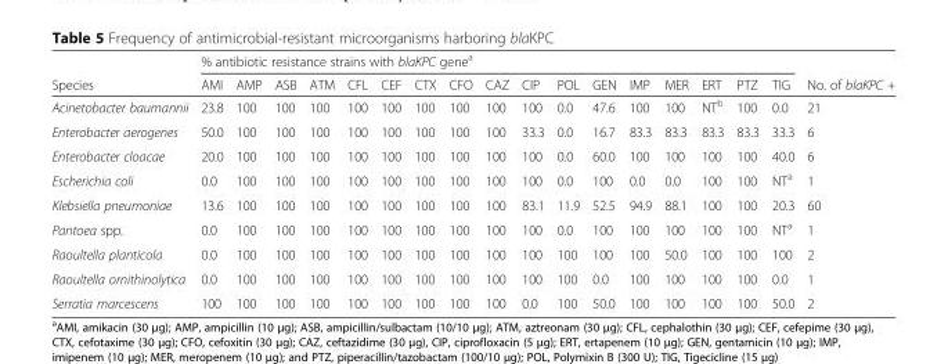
<table><thead><tr><td rowspan="2">Species</td><td colspan="17">% antibiotic resistance strains with blaKPC gene<sup>a</sup></td><td rowspan="2">No. of blaKPC +</td></tr><tr><td>AMI</td><td>AMP</td><td>ASB</td><td>ATM</td><td>CFL</td><td>CEF</td><td>CTX</td><td>CFO</td><td>CAZ</td><td>CIP</td><td>POL</td><td>GEN</td><td>IMP</td><td>MER</td><td>ERT</td><td>PTZ</td><td>TIG</td></tr></thead><tbody><tr><td>Acinetobacter baumannii</td><td>23.8</td><td>100</td><td>100</td><td>100</td><td>100</td><td>100</td><td>100</td><td>100</td><td>100</td><td>100</td><td>0.0</td><td>47.6</td><td>100</td><td>100</td><td>NT<sup>b</sup></td><td>100</td><td>0.0</td><td>21</td></tr><tr><td>Enterobacter aerogenes</td><td>50.0</td><td>100</td><td>100</td><td>100</td><td>100</td><td>100</td><td>100</td><td>100</td><td>100</td><td>33.3</td><td>0.0</td><td>16.7</td><td>83.3</td><td>83.3</td><td>83.3</td><td>83.3</td><td>33.3</td><td>6</td></tr><tr><td>Enterobacter cloacae</td><td>20.0</td><td>100</td><td>100</td><td>100</td><td>100</td><td>100</td><td>100</td><td>100</td><td>100</td><td>100</td><td>0.0</td><td>60.0</td><td>100</td><td>100</td><td>100</td><td>100</td><td>40.0</td><td>6</td></tr><tr><td>Escherichia coli</td><td>0.0</td><td>100</td><td>100</td><td>100</td><td>100</td><td>100</td><td>100</td><td>100</td><td>100</td><td>100</td><td>0.0</td><td>100</td><td>0.0</td><td>0.0</td><td>100</td><td>100</td><td>NT<sup>a</sup></td><td>1</td></tr><tr><td>Klebsiella pneumoniae</td><td>13.6</td><td>100</td><td>100</td><td>100</td><td>100</td><td>100</td><td>100</td><td>100</td><td>100</td><td>83.1</td><td>11.9</td><td>52.5</td><td>94.9</td><td>88.1</td><td>100</td><td>100</td><td>20.3</td><td>60</td></tr><tr><td>Pantoea spp.</td><td>0.0</td><td>100</td><td>100</td><td>100</td><td>100</td><td>100</td><td>100</td><td>100</td><td>100</td><td>100</td><td>0.0</td><td>100</td><td>100</td><td>100</td><td>100</td><td>100</td><td>NT<sup>a</sup></td><td>1</td></tr><tr><td>Raoultella planticola</td><td>0.0</td><td>100</td><td>100</td><td>100</td><td>100</td><td>100</td><td>100</td><td>100</td><td>100</td><td>100</td><td>100</td><td>100</td><td>100</td><td>50.0</td><td>100</td><td>100</td><td>100</td><td>2</td></tr><tr><td>Raoultella ornithinolytica</td><td>0.0</td><td>100</td><td>100</td><td>100</td><td>100</td><td>100</td><td>100</td><td>100</td><td>100</td><td>100</td><td>100</td><td>0.0</td><td>100</td><td>100</td><td>100</td><td>100</td><td>0.0</td><td>1</td></tr><tr><td>Serratia marcescens</td><td>100</td><td>100</td><td>100</td><td>100</td><td>100</td><td>100</td><td>100</td><td>100</td><td>100</td><td>0.0</td><td>100</td><td>50.0</td><td>100</td><td>100</td><td>100</td><td>100</td><td>50.0</td><td>2</td></tr></tbody></table>